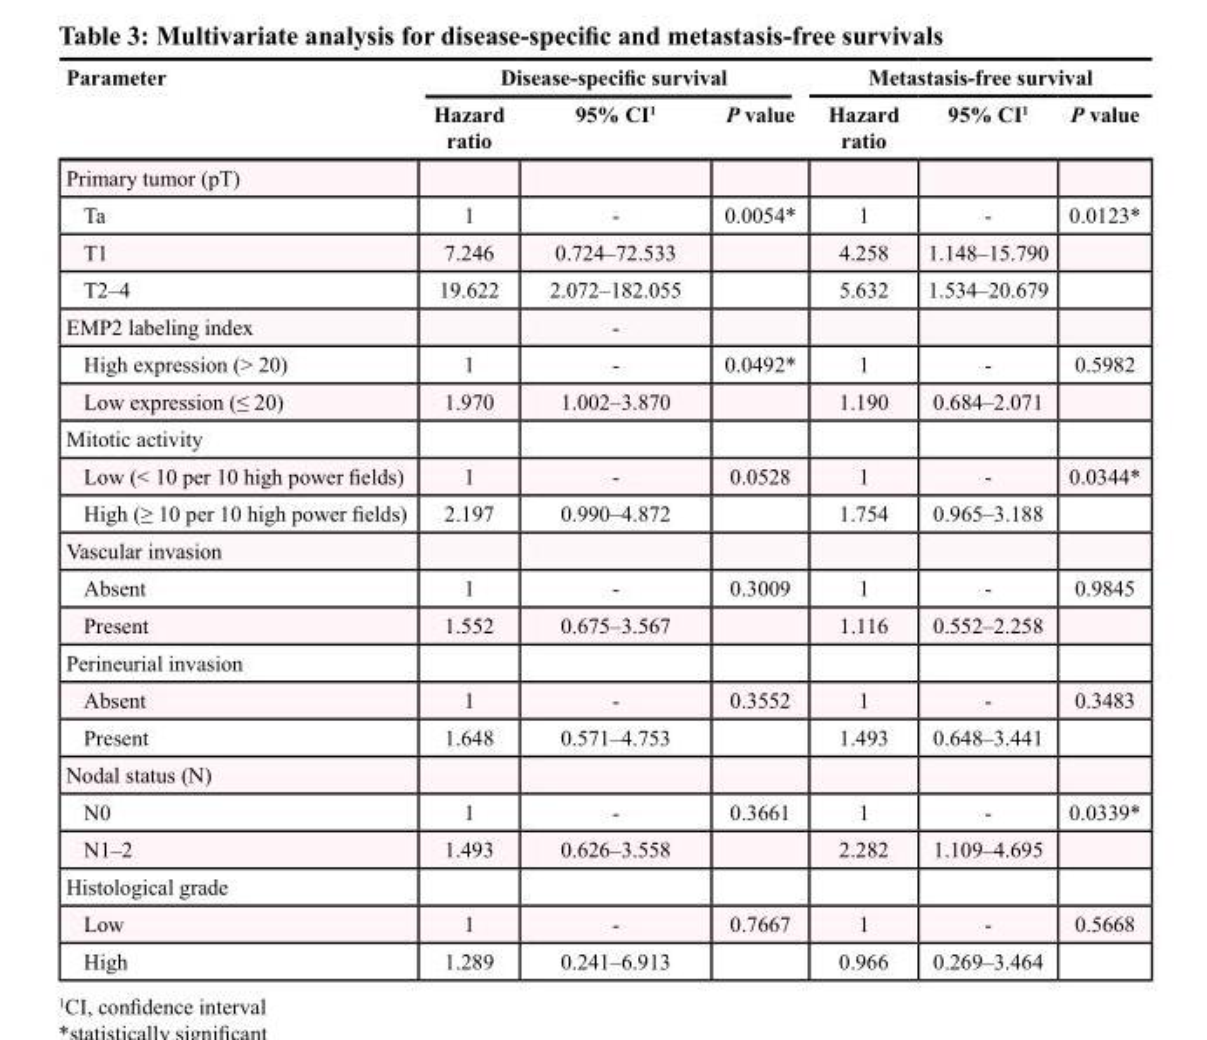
<table><thead><tr><td rowspan="2">Parameter</td><td colspan="3">Disease-specific survival</td><td colspan="3">Metastasis-free survival</td></tr><tr><td>Hazard ratio</td><td>95% CI<sup>1</sup></td><td>P value</td><td>Hazard ratio</td><td>95% CI<sup>1</sup></td><td>P value</td></tr></thead><tbody><tr><td colspan="7">Primary tumor (pT)</td></tr><tr><td>Ta</td><td>1</td><td>-</td><td>0.0054*</td><td>1</td><td>-</td><td>0.0123*</td></tr><tr><td>T1</td><td>7.246</td><td>0.724–72.533</td><td></td><td>4.258</td><td>1.148–15.790</td><td></td></tr><tr><td>T2–4</td><td>19.622</td><td>2.072–182.055</td><td></td><td>5.632</td><td>1.534–20.679</td><td></td></tr><tr><td>EMP2 labeling index</td><td></td><td>-</td><td></td><td></td><td></td><td></td></tr><tr><td>High expression (&gt; 20)</td><td>1</td><td>-</td><td>0.0492*</td><td>1</td><td>-</td><td>0.5982</td></tr><tr><td>Low expression (≤ 20)</td><td>1.970</td><td>1.002–3.870</td><td></td><td>1.190</td><td>0.684–2.071</td><td></td></tr><tr><td colspan="7">Mitotic activity</td></tr><tr><td>Low (&lt; 10 per 10 high power fields)</td><td>1</td><td>-</td><td>0.0528</td><td>1</td><td>-</td><td>0.0344*</td></tr><tr><td>High (≥ 10 per 10 high power fields)</td><td>2.197</td><td>0.990–4.872</td><td></td><td>1.754</td><td>0.965–3.188</td><td></td></tr><tr><td colspan="7">Vascular invasion</td></tr><tr><td>Absent</td><td>1</td><td>-</td><td>0.3009</td><td>1</td><td>-</td><td>0.9845</td></tr><tr><td>Present</td><td>1.552</td><td>0.675–3.567</td><td></td><td>1.116</td><td>0.552–2.258</td><td></td></tr><tr><td colspan="7">Perineurial invasion</td></tr><tr><td>Absent</td><td>1</td><td>-</td><td>0.3552</td><td>1</td><td>-</td><td>0.3483</td></tr><tr><td>Present</td><td>1.648</td><td>0.571–4.753</td><td></td><td>1.493</td><td>0.648–3.441</td><td></td></tr><tr><td colspan="7">Nodal status (N)</td></tr><tr><td>N0</td><td>1</td><td>-</td><td>0.3661</td><td>1</td><td>-</td><td>0.0339*</td></tr><tr><td>N1–2</td><td>1.493</td><td>0.626–3.558</td><td></td><td>2.282</td><td>1.109–4.695</td><td></td></tr><tr><td colspan="7">Histological grade</td></tr><tr><td>Low</td><td>1</td><td>-</td><td>0.7667</td><td>1</td><td>-</td><td>0.5668</td></tr><tr><td>High</td><td>1.289</td><td>0.241–6.913</td><td></td><td>0.966</td><td>0.269–3.464</td><td></td></tr></tbody></table>